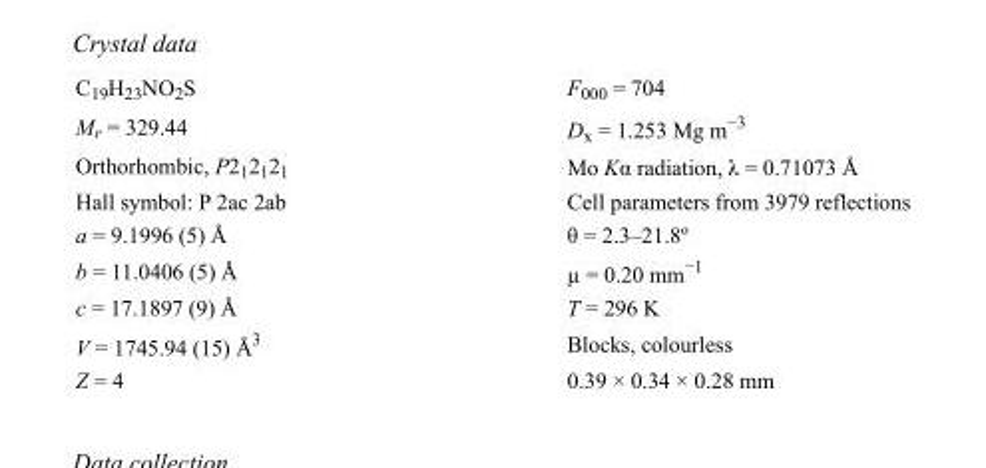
<table><tbody><tr><td>C<sub>19</sub>H<sub>23</sub>NO<sub>2</sub>S</td><td>F000 = 704</td></tr><tr><td>M<sub>r</sub> = 329.44</td><td>D<sub>x</sub> = 1.253 Mg m<sup>−3</sup></td></tr><tr><td>Orthorhombic, P2<sub>1</sub>2<sub>1</sub>2<sub>1</sub></td><td>Mo Kα radiation, λ = 0.71073 Å</td></tr><tr><td>Hall symbol: P 2ac 2ab</td><td>Cell parameters from 3979 reflections</td></tr><tr><td>a = 9.1996 (5) Å</td><td>θ = 2.3–21.8º</td></tr><tr><td>b = 11.0406 (5) Å</td><td>µ = 0.20 mm<sup>−1</sup></td></tr><tr><td>c = 17.1897 (9) Å</td><td>T = 296 K</td></tr><tr><td>V = 1745.94 (15) Å<sup>3</sup></td><td>Blocks, colourless</td></tr><tr><td>Z = 4</td><td>0.39 × 0.34 × 0.28 mm</td></tr></tbody></table>